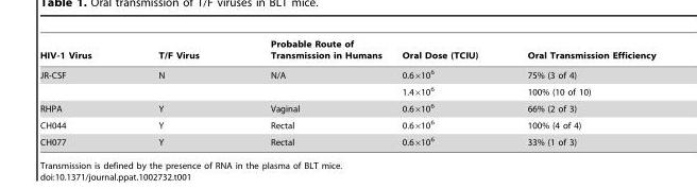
<table><thead><tr><td>HIV-1 Virus</td><td>T/F Virus</td><td>Probable Route of Transmission in Humans</td><td>Oral Dose (TCIU)</td><td>Oral Transmission Efficiency</td></tr></thead><tbody><tr><td rowspan="2">JR-CSF</td><td>N</td><td>N/A</td><td>0.6×10<sup>6</sup></td><td>75% (3 of 4)</td></tr><tr><td></td><td></td><td>1.4×10<sup>6</sup></td><td>100% (10 of 10)</td></tr><tr><td>RHPA</td><td>Y</td><td>Vaginal</td><td>0.6×10<sup>6</sup></td><td>66% (2 of 3)</td></tr><tr><td>CH044</td><td>Y</td><td>Rectal</td><td>0.6×10<sup>6</sup></td><td>100% (4 of 4)</td></tr><tr><td>CH077</td><td>Y</td><td>Rectal</td><td>0.6×10<sup>6</sup></td><td>33% (1 of 3)</td></tr></tbody></table>